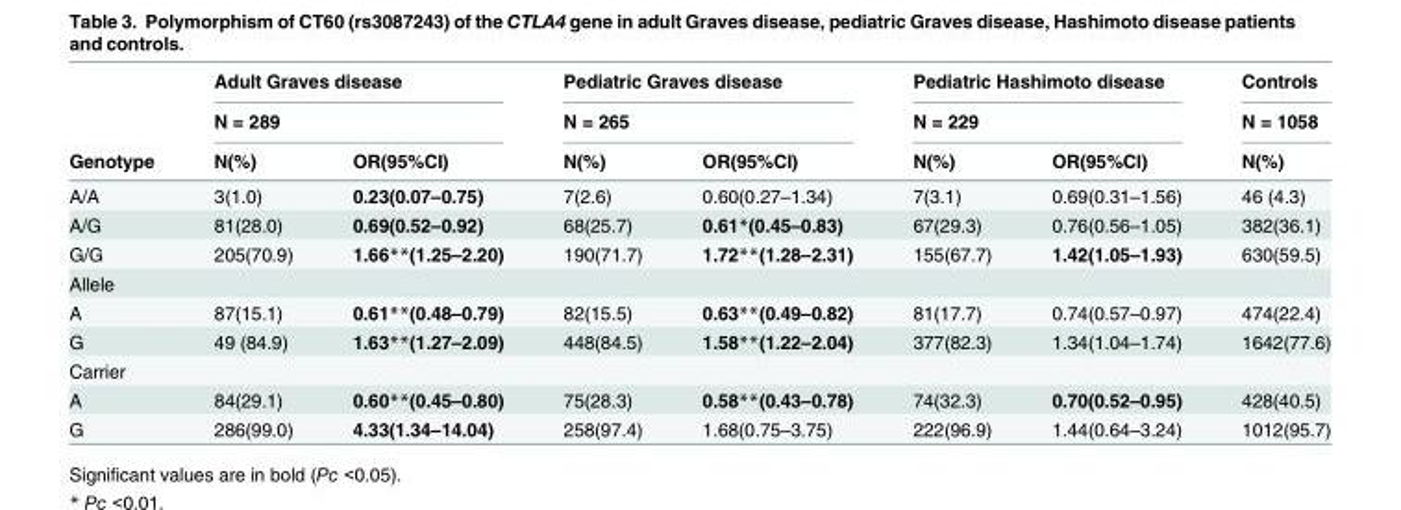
<table><thead><tr><td rowspan="3">Genotype</td><td rowspan="2" colspan="2">Adult Graves disease N = 289</td><td rowspan="2" colspan="2">Pediatric Graves disease N = 265</td><td rowspan="2" colspan="2">Pediatric Hashimoto disease N = 229</td><td rowspan="3">Controls N = 1058 N(%)</td></tr><tr></tr><tr><td>N(%)</td><td>OR(95%CI)</td><td>N(%)</td><td>OR(95%CI)</td><td>N(%)</td><td>OR(95%CI)</td></tr></thead><tbody><tr><td>A/A</td><td>3(1.0)</td><td>0.23(0.07–0.75)</td><td>7(2.6)</td><td>0.60(0.27–1.34)</td><td>7(3.1)</td><td>0.69(0.31–1.56)</td><td>46 (4.3)</td></tr><tr><td>A/G</td><td>81(28.0)</td><td>0.69(0.52–0.92)</td><td>68(25.7)</td><td>0.61*(0.45–0.83)</td><td>67(29.3)</td><td>0.76(0.56–1.05)</td><td>382(36.1)</td></tr><tr><td>G/G</td><td>205(70.9)</td><td>1.66**(1.25–2.20)</td><td>190(71.7)</td><td>1.72**(1.28–2.31)</td><td>155(67.7)</td><td>1.42(1.05–1.93)</td><td>630(59.5)</td></tr><tr><td colspan="8">Allele</td></tr><tr><td>A</td><td>87(15.1)</td><td>0.61**(0.48–0.79)</td><td>82(15.5)</td><td>0.63**(0.49–0.82)</td><td>81(17.7)</td><td>0.74(0.57–0.97)</td><td>474(22.4)</td></tr><tr><td>G</td><td>49 (84.9)</td><td>1.63**(1.27–2.09)</td><td>448(84.5)</td><td>1.58**(1.22–2.04)</td><td>377(82.3)</td><td>1.34(1.04–1.74)</td><td>1642(77.6)</td></tr><tr><td colspan="8">Carrier</td></tr><tr><td>A</td><td>84(29.1)</td><td>0.60**(0.45–0.80)</td><td>75(28.3)</td><td>0.58**(0.43–0.78)</td><td>74(32.3)</td><td>0.70(0.52–0.95)</td><td>428(40.5)</td></tr><tr><td>G</td><td>286(99.0)</td><td>4.33(1.34–14.04)</td><td>258(97.4)</td><td>1.68(0.75–3.75)</td><td>222(96.9)</td><td>1.44(0.64–3.24)</td><td>1012(95.7)</td></tr></tbody></table>